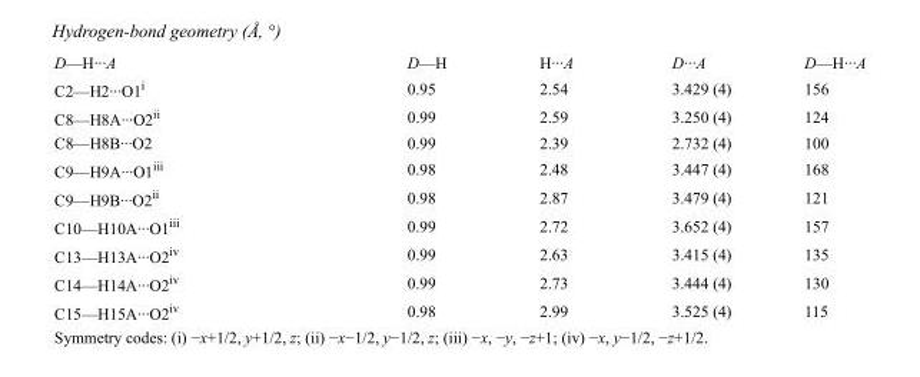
<table><tbody><tr><td>D—H···A</td><td>D—H</td><td>H···A</td><td>D···A</td><td>D—H···A</td></tr><tr><td>C2—H2···O1<sup>i</sup></td><td>0.95</td><td>2.54</td><td>3.429 (4)</td><td>156</td></tr><tr><td>C8—H8A···O2<sup>ii</sup></td><td>0.99</td><td>2.59</td><td>3.250 (4)</td><td>124</td></tr><tr><td>C8—H8B···O2</td><td>0.99</td><td>2.39</td><td>2.732 (4)</td><td>100</td></tr><tr><td>C9—H9A···O1<sup>iii</sup></td><td>0.98</td><td>2.48</td><td>3.447 (4)</td><td>168</td></tr><tr><td>C9—H9B···O2<sup>ii</sup></td><td>0.98</td><td>2.87</td><td>3.479 (4)</td><td>121</td></tr><tr><td>C10—H10A···O1<sup>iii</sup></td><td>0.99</td><td>2.72</td><td>3.652 (4)</td><td>157</td></tr><tr><td>C13—H13A···O2<sup>iv</sup></td><td>0.99</td><td>2.63</td><td>3.415 (4)</td><td>135</td></tr><tr><td>C14—H14A···O2<sup>iv</sup></td><td>0.99</td><td>2.73</td><td>3.444 (4)</td><td>130</td></tr><tr><td>C15—H15A···O2<sup>iv</sup></td><td>0.98</td><td>2.99</td><td>3.525 (4)</td><td>115</td></tr></tbody></table>